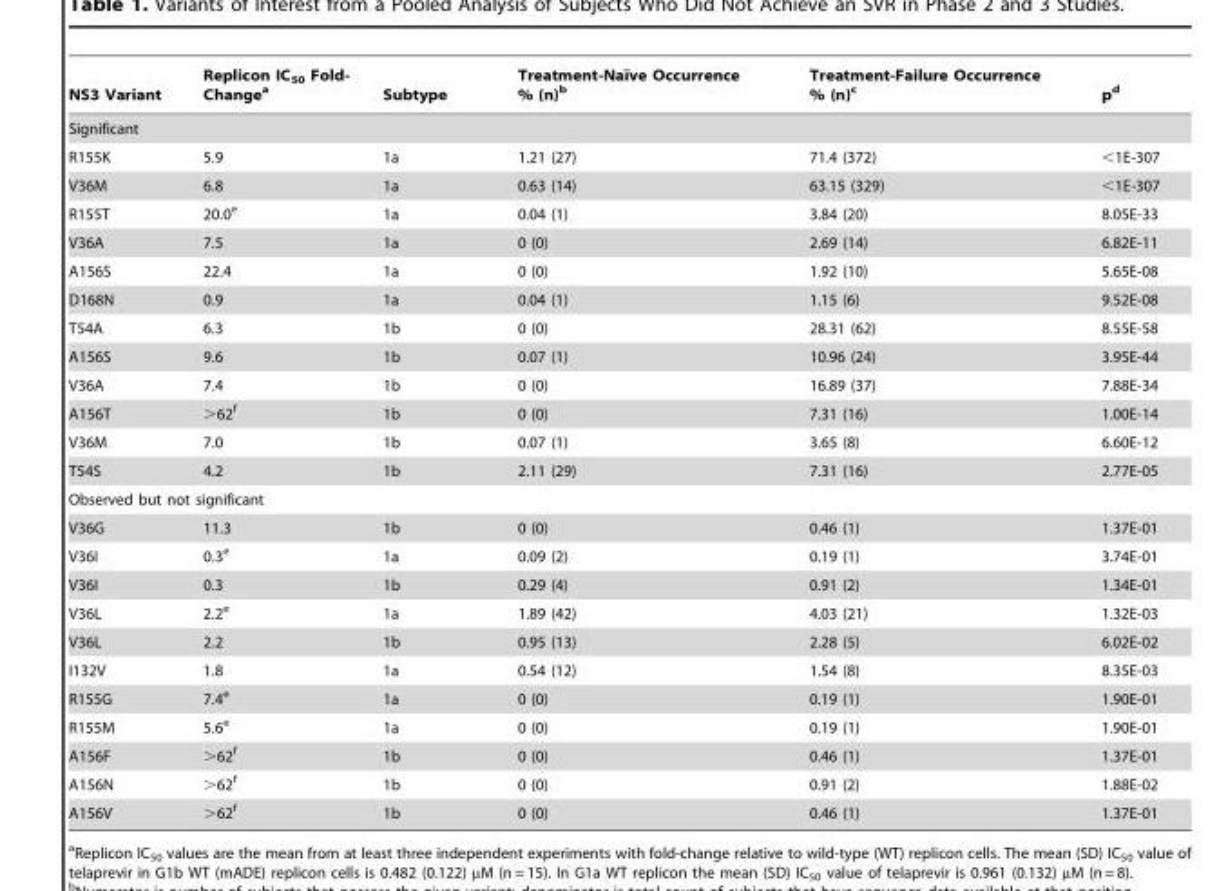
<table><thead><tr><td>NS3 Variant</td><td>Replicon IC<sub>50</sub> Fold- Change<sup>a</sup></td><td>Subtype</td><td>Treatment-Naı¨ve Occurrence % (n)b</td><td>Treatment-Failure Occurrence % (n)<sup>c</sup></td><td>p<sup>d</sup></td></tr></thead><tbody><tr><td colspan="6">Significant</td></tr><tr><td>R155K</td><td>5.9</td><td>1a</td><td>1.21 (27)</td><td>71.4 (372)</td><td>&lt;1E-307</td></tr><tr><td>V36M</td><td>6.8</td><td>1a</td><td>0.63 (14)</td><td>63.15 (329)</td><td>&lt;1E-307</td></tr><tr><td>R155T</td><td>20.0<sup>e</sup></td><td>1a</td><td>0.04 (1)</td><td>3.84 (20)</td><td>8.05E-33</td></tr><tr><td>V36A</td><td>7.5</td><td>1a</td><td>0 (0)</td><td>2.69 (14)</td><td>6.82E-11</td></tr><tr><td>A156S</td><td>22.4</td><td>1a</td><td>0 (0)</td><td>1.92 (10)</td><td>5.65E-08</td></tr><tr><td>D168N</td><td>0.9</td><td>1a</td><td>0.04 (1)</td><td>1.15 (6)</td><td>9.52E-08</td></tr><tr><td>T54A</td><td>6.3</td><td>1b</td><td>0 (0)</td><td>28.31 (62)</td><td>8.55E-58</td></tr><tr><td>A156S</td><td>9.6</td><td>1b</td><td>0.07 (1)</td><td>10.96 (24)</td><td>3.95E-44</td></tr><tr><td>V36A</td><td>7.4</td><td>1b</td><td>0 (0)</td><td>16.89 (37)</td><td>7.88E-34</td></tr><tr><td>A156T</td><td>&gt;62<sup>f</sup></td><td>1b</td><td>0 (0)</td><td>7.31 (16)</td><td>1.00E-14</td></tr><tr><td>V36M</td><td>7.0</td><td>1b</td><td>0.07 (1)</td><td>3.65 (8)</td><td>6.60E-12</td></tr><tr><td>T54S</td><td>4.2</td><td>1b</td><td>2.11 (29)</td><td>7.31 (16)</td><td>2.77E-05</td></tr><tr><td colspan="6">Observed but not significant</td></tr><tr><td>V36G</td><td>11.3</td><td>1b</td><td>0 (0)</td><td>0.46 (1)</td><td>1.37E-01</td></tr><tr><td>V36I</td><td>0.3<sup>e</sup></td><td>1a</td><td>0.09 (2)</td><td>0.19 (1)</td><td>3.74E-01</td></tr><tr><td>V36I</td><td>0.3</td><td>1b</td><td>0.29 (4)</td><td>0.91 (2)</td><td>1.34E-01</td></tr><tr><td>V36L</td><td>2.2<sup>e</sup></td><td>1a</td><td>1.89 (42)</td><td>4.03 (21)</td><td>1.32E-03</td></tr><tr><td>V36L</td><td>2.2</td><td>1b</td><td>0.95 (13)</td><td>2.28 (5)</td><td>6.02E-02</td></tr><tr><td>I132V</td><td>1.8</td><td>1a</td><td>0.54 (12)</td><td>1.54 (8)</td><td>8.35E-03</td></tr><tr><td>R155G</td><td>7.4<sup>e</sup></td><td>1a</td><td>0 (0)</td><td>0.19 (1)</td><td>1.90E-01</td></tr><tr><td>R155M</td><td>5.6<sup>e</sup></td><td>1a</td><td>0 (0)</td><td>0.19 (1)</td><td>1.90E-01</td></tr><tr><td>A156F</td><td>&gt;62<sup>f</sup></td><td>1b</td><td>0 (0)</td><td>0.46 (1)</td><td>1.37E-01</td></tr><tr><td>A156N</td><td>&gt;62<sup>f</sup></td><td>1b</td><td>0 (0)</td><td>0.91 (2)</td><td>1.88E-02</td></tr><tr><td>A156V</td><td>&gt;62<sup>f</sup></td><td>1b</td><td>0 (0)</td><td>0.46 (1)</td><td>1.37E-01</td></tr></tbody></table>